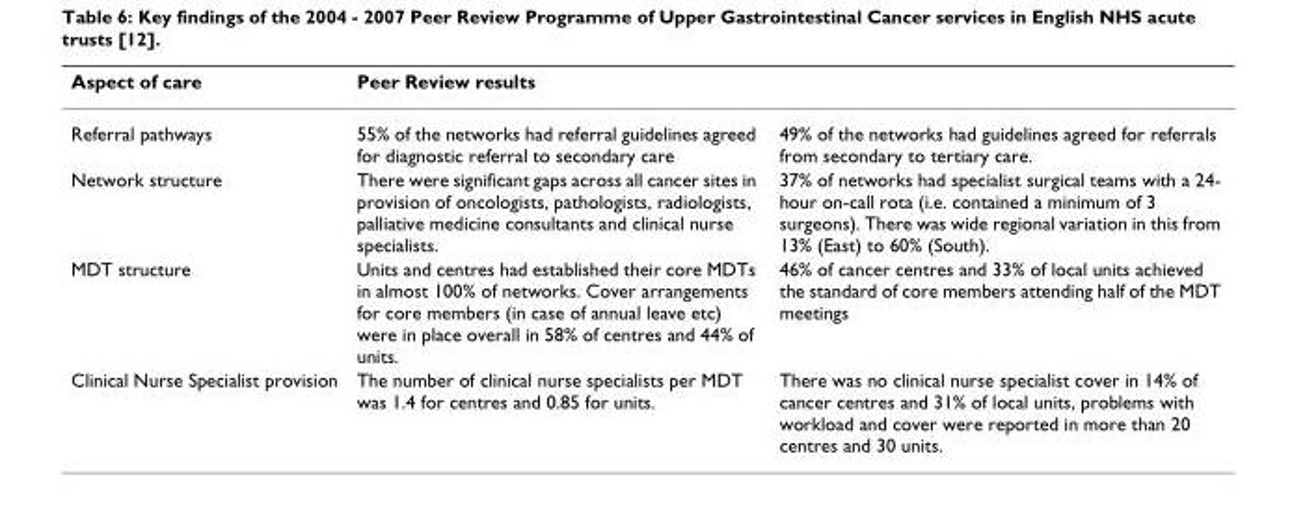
<table><thead><tr><td>Aspect of care</td><td>Peer Review results</td><td></td></tr></thead><tbody><tr><td>Referral pathways</td><td>55% of the networks had referral guidelines agreed for diagnostic referral to secondary care</td><td>49% of the networks had guidelines agreed for referrals from secondary to tertiary care.</td></tr><tr><td>Network structure</td><td>There were significant gaps across all cancer sites in provision of oncologists, pathologists, radiologists, palliative medicine consultants and clinical nurse specialists.</td><td>37% of networks had specialist surgical teams with a 24- hour on-call rota (i.e. contained a minimum of 3 surgeons). There was wide regional variation in this from 13% (East) to 60% (South).</td></tr><tr><td>MDT structure</td><td>Units and centres had established their core MDTs in almost 100% of networks. Cover arrangements for core members (in case of annual leave etc) were in place overall in 58% of centres and 44% of units.</td><td>46% of cancer centres and 33% of local units achieved the standard of core members attending half of the MDT meetings</td></tr><tr><td>Clinical Nurse Specialist provision</td><td>The number of clinical nurse specialists per MDT was 1.4 for centres and 0.85 for units.</td><td>There was no clinical nurse specialist cover in 14% of cancer centres and 31% of local units, problems with workload and cover were reported in more than 20 centres and 30 units.</td></tr></tbody></table>